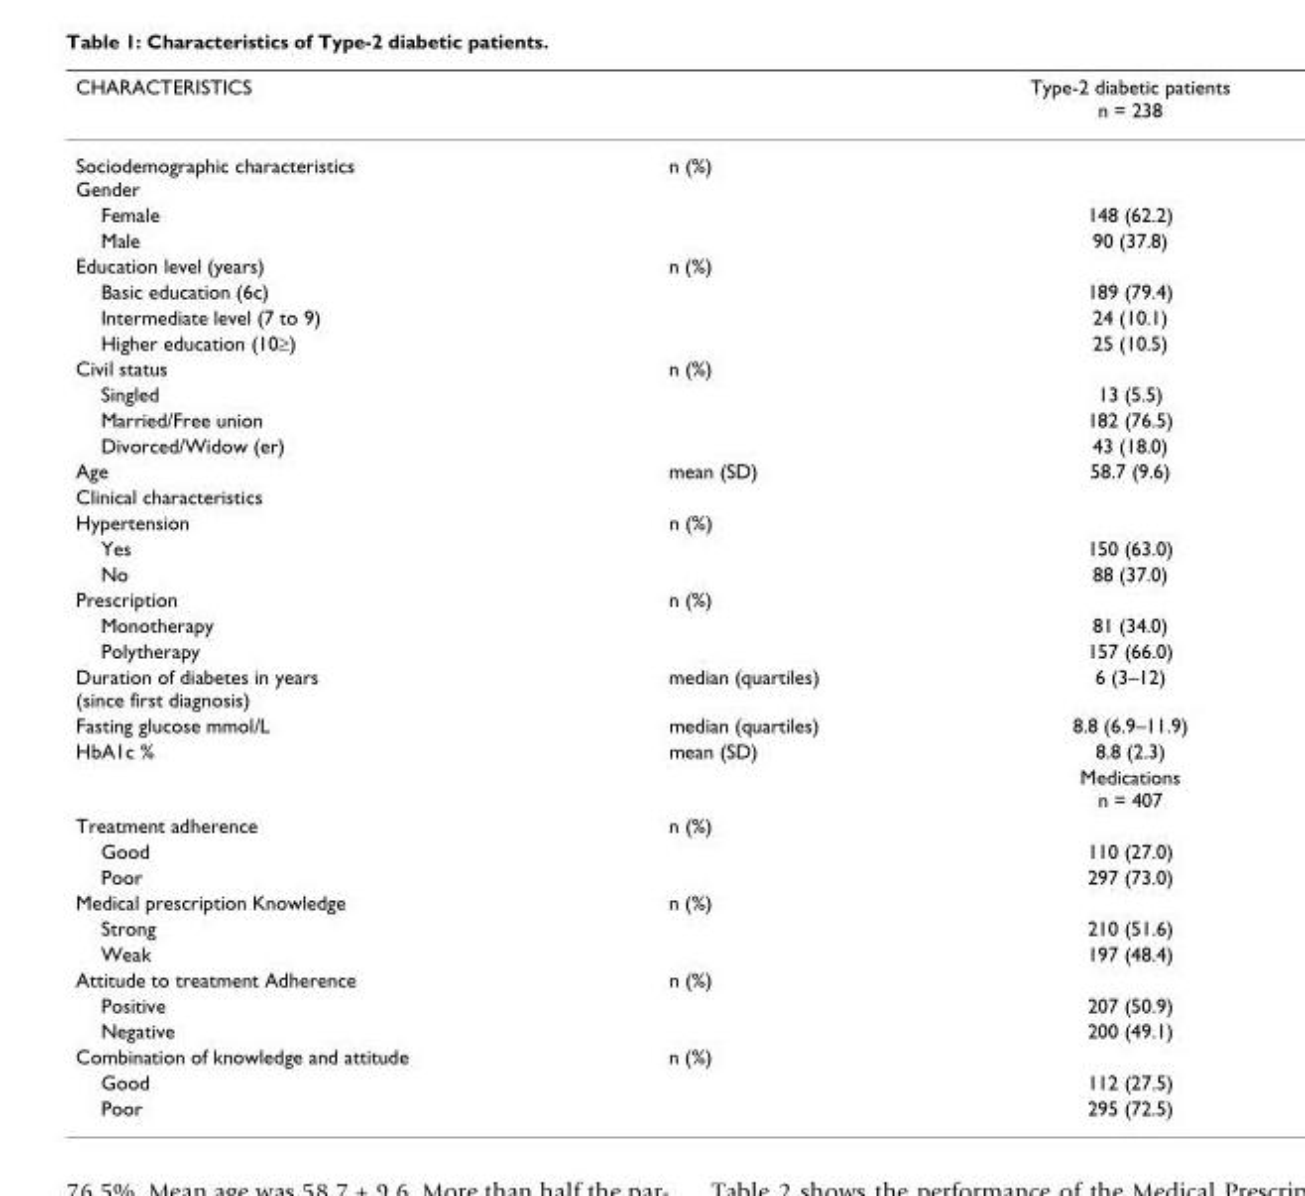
<table><thead><tr><td colspan="2">CHARACTERISTICS</td><td rowspan="2">Type-2 diabetic patients n = 238</td></tr><tr><td>Sociodemographic characteristics Gender</td><td>n (%)</td></tr></thead><tbody><tr><td>Female</td><td></td><td>148 (62.2)</td></tr><tr><td>Male</td><td></td><td>90 (37.8)</td></tr><tr><td>Education level (years)</td><td>n (%)</td><td></td></tr><tr><td>Basic education (6c)</td><td></td><td>189 (79.4)</td></tr><tr><td>Intermediate level (7 to 9)</td><td></td><td>24 (10.1)</td></tr><tr><td>Higher education (10≥)</td><td></td><td>25 (10.5)</td></tr><tr><td>Civil status</td><td>n (%)</td><td></td></tr><tr><td>Singled</td><td></td><td>13 (5.5)</td></tr><tr><td>Married/Free union</td><td></td><td>182 (76.5)</td></tr><tr><td>Divorced/Widow (er)</td><td></td><td>43 (18.0)</td></tr><tr><td>Age</td><td>mean (SD)</td><td>58.7 (9.6)</td></tr><tr><td colspan="3">Clinical characteristics</td></tr><tr><td>Hypertension</td><td>n (%)</td><td></td></tr><tr><td>Yes</td><td></td><td>150 (63.0)</td></tr><tr><td>No</td><td></td><td>88 (37.0)</td></tr><tr><td>Prescription</td><td>n (%)</td><td></td></tr><tr><td>Monotherapy</td><td></td><td>81 (34.0)</td></tr><tr><td>Polytherapy</td><td></td><td>157 (66.0)</td></tr><tr><td>Duration of diabetes in years (since first diagnosis)</td><td>median (quartiles)</td><td>6 (3–12)</td></tr><tr><td>Fasting glucose mmol/L</td><td>median (quartiles)</td><td>8.8 (6.9–11.9)</td></tr><tr><td rowspan="2">HbA1c %</td><td>mean (SD)</td><td>8.8 (2.3)</td></tr><tr><td></td><td>Medications n = 407</td></tr><tr><td>Treatment adherence</td><td>n (%)</td><td></td></tr><tr><td>Good</td><td></td><td>110 (27.0)</td></tr><tr><td>Poor</td><td></td><td>297 (73.0)</td></tr><tr><td>Medical prescription Knowledge</td><td>n (%)</td><td></td></tr><tr><td>Strong</td><td></td><td>210 (51.6)</td></tr><tr><td>Weak</td><td></td><td>197 (48.4)</td></tr><tr><td>Attitude to treatment Adherence</td><td>n (%)</td><td></td></tr><tr><td>Positive</td><td></td><td>207 (50.9)</td></tr><tr><td>Negative</td><td></td><td>200 (49.1)</td></tr><tr><td>Combination of knowledge and attitude</td><td>n (%)</td><td></td></tr><tr><td>Good</td><td></td><td>112 (27.5)</td></tr><tr><td>Poor</td><td></td><td>295 (72.5)</td></tr></tbody></table>